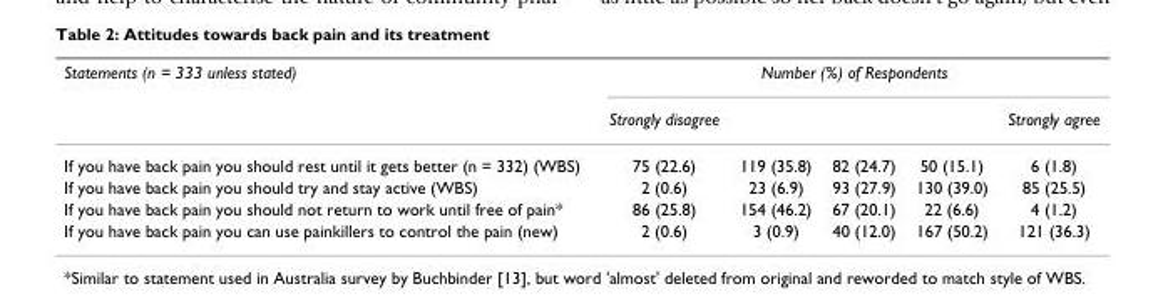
<table><thead><tr><td rowspan="2">Statements (n = 333 unless stated)</td><td colspan="5">Number (%) of Respondents</td></tr><tr><td>Strongly disagree</td><td></td><td></td><td></td><td>Strongly agree</td></tr></thead><tbody><tr><td>If you have back pain you should rest until it gets better (n = 332) (WBS)</td><td>75 (22.6)</td><td>119 (35.8)</td><td>82 (24.7)</td><td>50 (15.1)</td><td>6 (1.8)</td></tr><tr><td>If you have back pain you should try and stay active (WBS)</td><td>2 (0.6)</td><td>23 (6.9)</td><td>93 (27.9)</td><td>130 (39.0)</td><td>85 (25.5)</td></tr><tr><td>If you have back pain you should not return to work until free of pain*</td><td>86 (25.8)</td><td>154 (46.2)</td><td>67 (20.1)</td><td>22 (6.6)</td><td>4 (1.2)</td></tr><tr><td>If you have back pain you can use painkillers to control the pain (new)</td><td>2 (0.6)</td><td>3 (0.9)</td><td>40 (12.0)</td><td>167 (50.2)</td><td>121 (36.3)</td></tr></tbody></table>